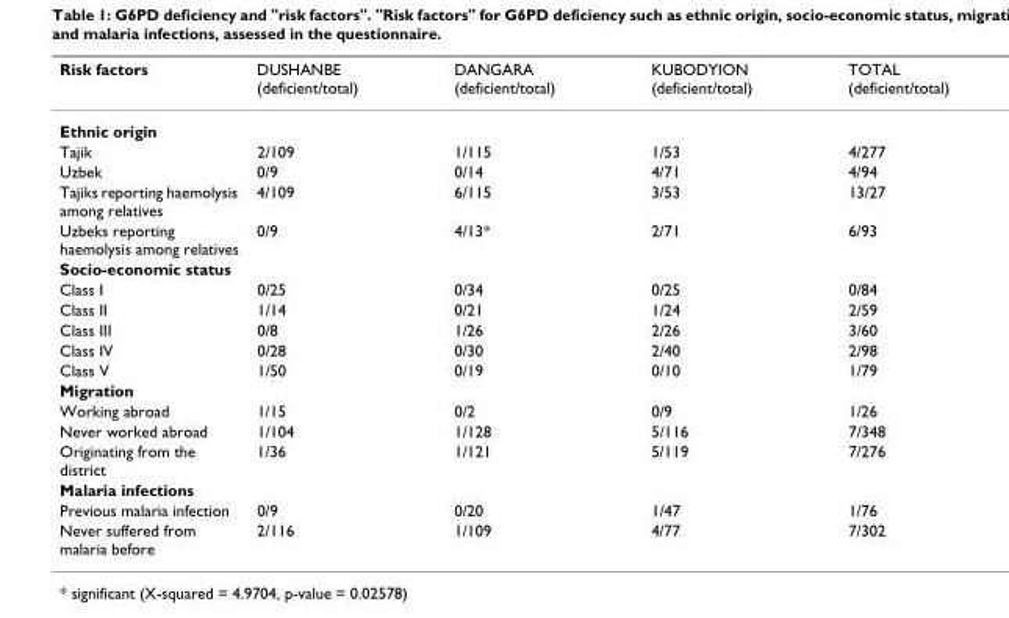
<table><thead><tr><td>Risk factors</td><td>DUSHANBE (deficient/total)</td><td>DANGARA (deficient/total)</td><td>KUBODYION (deficient/total)</td><td>TOTAL (deficient/total)</td></tr></thead><tbody><tr><td colspan="5">Ethnic origin</td></tr><tr><td>Tajik</td><td>2/109</td><td>1/115</td><td>1/53</td><td>4/277</td></tr><tr><td>Uzbek</td><td>0/9</td><td>0/14</td><td>4/71</td><td>4/94</td></tr><tr><td>Tajiks reporting haemolysis among relatives</td><td>4/109</td><td>6/115</td><td>3/53</td><td>13/27</td></tr><tr><td>Uzbeks reporting haemolysis among relatives</td><td>0/9</td><td>4/13*</td><td>2/71</td><td>6/93</td></tr><tr><td colspan="5">Socio-economic status</td></tr><tr><td>Class I</td><td>0/25</td><td>0/34</td><td>0/25</td><td>0/84</td></tr><tr><td>Class II</td><td>1/14</td><td>0/21</td><td>1/24</td><td>2/59</td></tr><tr><td>Class III</td><td>0/8</td><td>1/26</td><td>2/26</td><td>3/60</td></tr><tr><td>Class IV</td><td>0/28</td><td>0/30</td><td>2/40</td><td>2/98</td></tr><tr><td>Class V</td><td>1/50</td><td>0/19</td><td>0/10</td><td>1/79</td></tr><tr><td colspan="5">Migration</td></tr><tr><td>Working abroad</td><td>1/15</td><td>0/2</td><td>0/9</td><td>1/26</td></tr><tr><td>Never worked abroad</td><td>1/104</td><td>1/128</td><td>5/116</td><td>7/348</td></tr><tr><td>Originating from the district</td><td>1/36</td><td>1/121</td><td>5/119</td><td>7/276</td></tr><tr><td colspan="5">Malaria infections</td></tr><tr><td>Previous malaria infection</td><td>0/9</td><td>0/20</td><td>1/47</td><td>1/76</td></tr><tr><td>Never suffered from malaria before</td><td>2/116</td><td>1/109</td><td>4/77</td><td>7/302</td></tr></tbody></table>